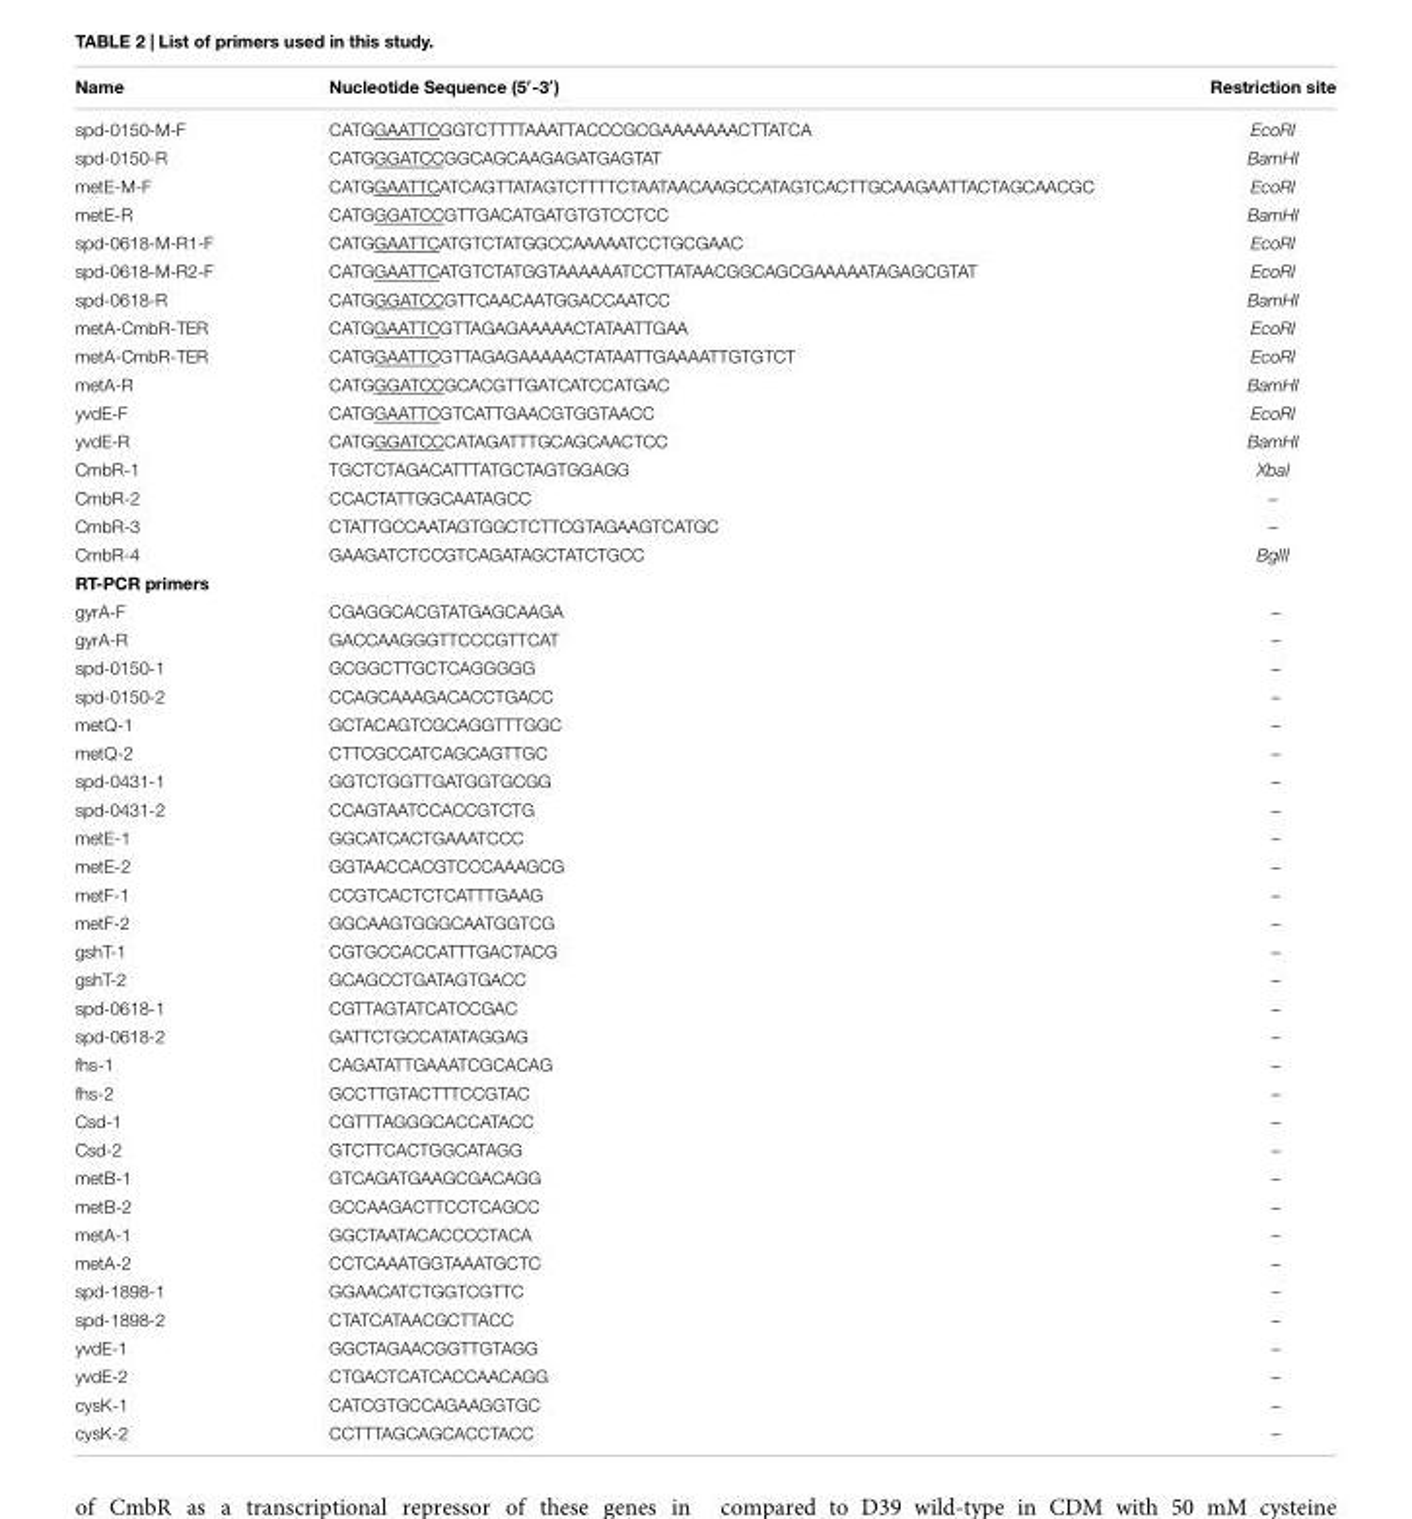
<table><thead><tr><td>Name</td><td>Nucleotide Sequence (5′-3′)</td><td>Restriction site</td></tr></thead><tbody><tr><td>spd-0150-M-F</td><td>CATGGAATTCGGTCTTTTAAATTACCCGCGAAAAAAACTTATCA</td><td>EcoRI</td></tr><tr><td>spd-0150-R</td><td>CATGGGATCCGGCAGCAAGAGATGAGTAT</td><td>BamHI</td></tr><tr><td>metE-M-F</td><td>CATGGAATTCATCAGTTATAGTCTTTTCTAATAACAAGCCATAGTCACTTGCAAGAATTACTAGCAACGC</td><td>EcoRI</td></tr><tr><td>metE-R</td><td>CATGGGATCCGTTGACATGATGTGTCCTCC</td><td>BamHI</td></tr><tr><td>spd-0618-M-R1-F</td><td>CATGGAATTCATGTCTATGGCCAAAAATCCTGCGAAC</td><td>EcoRI</td></tr><tr><td>spd-0618-M-R2-F</td><td>CATGGAATTCATGTCTATGGTAAAAAATCCTTATAACGGCAGCGAAAAATAGAGCGTAT</td><td>EcoRI</td></tr><tr><td>spd-0618-R</td><td>CATGGGATCCGTTCAACAATGGACCAATCC</td><td>BamHI</td></tr><tr><td>metA-CmbR-TER</td><td>CATGGAATTCGTTAGAGAAAAACTATAATTGAA</td><td>EcoRI</td></tr><tr><td>metA-CmbR-TER</td><td>CATGGAATTCGTTAGAGAAAAACTATAATTGAAAATTGTGTCT</td><td>EcoRI</td></tr><tr><td>metA-R</td><td>CATGGGATCCGCACGTTGATCATCCATGAC</td><td>BamHI</td></tr><tr><td>yvdE-F</td><td>CATGGAATTCGTCATTGAACGTGGTAACC</td><td>EcoRI</td></tr><tr><td>yvdE-R</td><td>CATGGGATCCCATAGATTTGCAGCAACTCC</td><td>BamHI</td></tr><tr><td>CmbR-1</td><td>TGCTCTAGACATTTATGCTAGTGGAGG</td><td>XbaI</td></tr><tr><td>CmbR-2</td><td>CCACTATTGGCAATAGCC</td><td>–</td></tr><tr><td>CmbR-3</td><td>CTATTGCCAATAGTGGCTCTTCGTAGAAGTCATGC</td><td>–</td></tr><tr><td>CmbR-4</td><td>GAAGATCTCCGTCAGATAGCTATCTGCC</td><td>BglII</td></tr><tr><td colspan="3">RT-PCR primers</td></tr><tr><td>gyrA-F</td><td>CGAGGCACGTATGAGCAAGA</td><td>–</td></tr><tr><td>gyrA-R</td><td>GACCAAGGGTTCCCGTTCAT</td><td>–</td></tr><tr><td>spd-0150-1</td><td>GCGGCTTGCTCAGGGGG</td><td>–</td></tr><tr><td>spd-0150-2</td><td>CCAGCAAAGACACCTGACC</td><td>–</td></tr><tr><td>metQ-1</td><td>GCTACAGTCGCAGGTTTGGC</td><td>–</td></tr><tr><td>metQ-2</td><td>CTTCGCCATCAGCAGTTGC</td><td>–</td></tr><tr><td>spd-0431-1</td><td>GGTCTGGTTGATGGTGCGG</td><td>–</td></tr><tr><td>spd-0431-2</td><td>CCAGTAATCCACCGTCTG</td><td>–</td></tr><tr><td>metE-1</td><td>GGCATCACTGAAATCCC</td><td>–</td></tr><tr><td>metE-2</td><td>GGTAACCACGTCCCAAAGCG</td><td>–</td></tr><tr><td>metF-1</td><td>CCGTCACTCTCATTTGAAG</td><td>–</td></tr><tr><td>metF-2</td><td>GGCAAGTGGGCAATGGTCG</td><td>–</td></tr><tr><td>gshT-1</td><td>CGTGCCACCATTTGACTACG</td><td>–</td></tr><tr><td>gshT-2</td><td>GCAGCCTGATAGTGACC</td><td>–</td></tr><tr><td>spd-0618-1</td><td>CGTTAGTATCATCCGAC</td><td>–</td></tr><tr><td>spd-0618-2</td><td>GATTCTGCCATATAGGAG</td><td>–</td></tr><tr><td>fhs-1</td><td>CAGATATTGAAATCGCACAG</td><td>–</td></tr><tr><td>fhs-2</td><td>GCCTTGTACTTTCCGTAC</td><td>–</td></tr><tr><td>Csd-1</td><td>CGTTTAGGGCACCATACC</td><td>–</td></tr><tr><td>Csd-2</td><td>GTCTTCACTGGCATAGG</td><td>–</td></tr><tr><td>metB-1</td><td>GTCAGATGAAGCGACAGG</td><td>–</td></tr><tr><td>metB-2</td><td>GCCAAGACTTCCTCAGCC</td><td>–</td></tr><tr><td>metA-1</td><td>GGCTAATACACCCCTACA</td><td>–</td></tr><tr><td>metA-2</td><td>CCTCAAATGGTAAATGCTC</td><td>–</td></tr><tr><td>spd-1898-1</td><td>GGAACATCTGGTCGTTC</td><td>–</td></tr><tr><td>spd-1898-2</td><td>CTATCATAACGCTTACC</td><td>–</td></tr><tr><td>yvdE-1</td><td>GGCTAGAACGGTTGTAGG</td><td>–</td></tr><tr><td>yvdE-2</td><td>CTGACTCATCACCAACAGG</td><td>–</td></tr><tr><td>cysK-1</td><td>CATCGTGCCAGAAGGTGC</td><td>–</td></tr><tr><td>cysK-2</td><td>CCTTTAGCAGCACCTACC</td><td>–</td></tr></tbody></table>